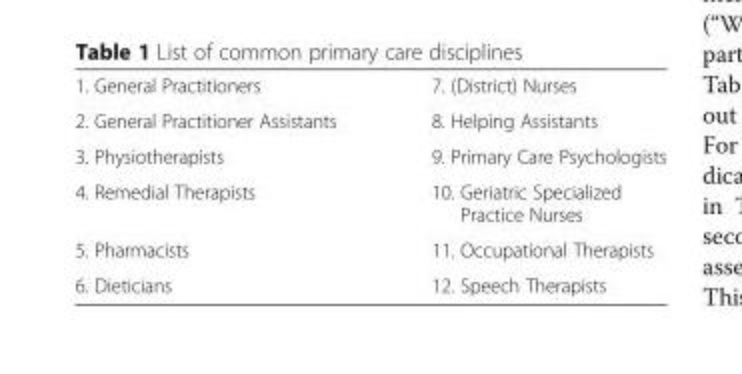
<table><tbody><tr><td>1. General Practitioners</td><td>7. (District) Nurses</td></tr><tr><td>2. General Practitioner Assistants</td><td>8. Helping Assistants</td></tr><tr><td>3. Physiotherapists</td><td>9. Primary Care Psychologists</td></tr><tr><td>4. Remedial Therapists</td><td>10. Geriatric Specialized Practice Nurses</td></tr><tr><td>5. Pharmacists</td><td>11. Occupational Therapists</td></tr><tr><td>6. Dieticians</td><td>12. Speech Therapists</td></tr></tbody></table>